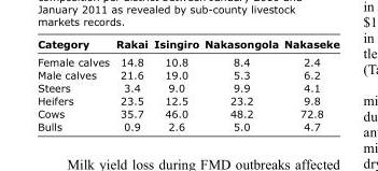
<table><thead><tr><td>Category</td><td>Rakai</td><td>Isingiro</td><td>Nakasongola</td><td>Nakaseke</td></tr></thead><tbody><tr><td>Female calves</td><td>14.8</td><td>10.8</td><td>8.4</td><td>2.4</td></tr><tr><td>Male calves</td><td>21.6</td><td>19.0</td><td>5.3</td><td>6.2</td></tr><tr><td>Steers</td><td>3.4</td><td>9.0</td><td>9.9</td><td>4.1</td></tr><tr><td>Heifers</td><td>23.5</td><td>12.5</td><td>23.2</td><td>9.8</td></tr><tr><td>Cows</td><td>35.7</td><td>46.0</td><td>48.2</td><td>72.8</td></tr><tr><td>Bulls</td><td>0.9</td><td>2.6</td><td>5.0</td><td>4.7</td></tr></tbody></table>